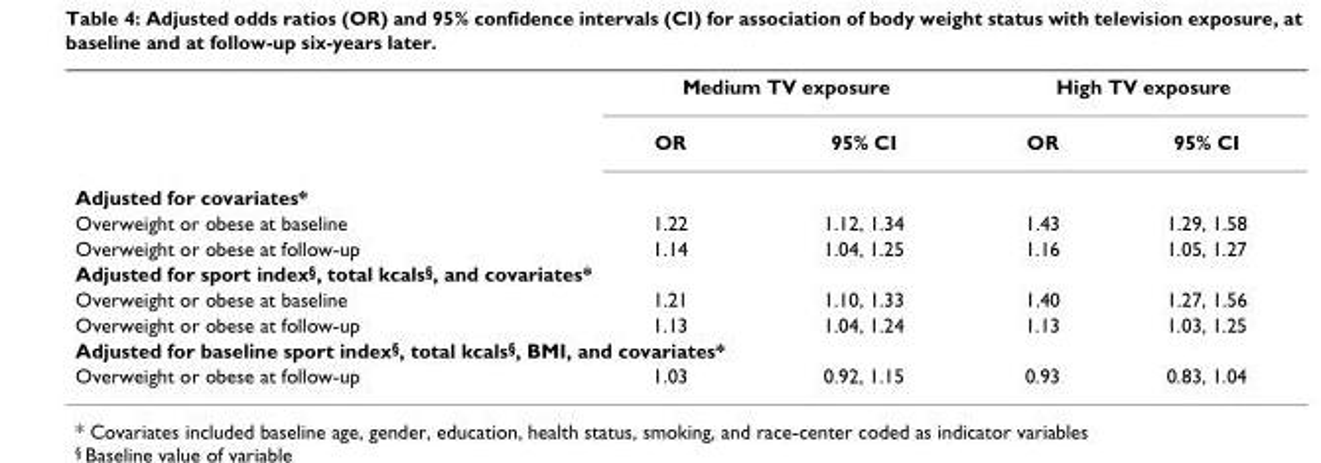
<table><thead><tr><td rowspan="2"></td><td colspan="2">Medium TV exposure</td><td colspan="2">High TV exposure</td></tr><tr><td>OR</td><td>95% CI</td><td>OR</td><td>95% CI</td></tr></thead><tbody><tr><td colspan="5">Adjusted for covariates*</td></tr><tr><td>Overweight or obese at baseline</td><td>1.22</td><td>1.12, 1.34</td><td>1.43</td><td>1.29, 1.58</td></tr><tr><td>Overweight or obese at follow-up</td><td>1.14</td><td>1.04, 1.25</td><td>1.16</td><td>1.05, 1.27</td></tr><tr><td colspan="5">Adjusted for sport index<sup>§</sup>, total kcals<sup>§</sup>, and covariates*</td></tr><tr><td>Overweight or obese at baseline</td><td>1.21</td><td>1.10, 1.33</td><td>1.40</td><td>1.27, 1.56</td></tr><tr><td>Overweight or obese at follow-up</td><td>1.13</td><td>1.04, 1.24</td><td>1.13</td><td>1.03, 1.25</td></tr><tr><td colspan="5">Adjusted for baseline sport index<sup>§</sup>, total kcals<sup>§</sup>, BMI, and covariates*</td></tr><tr><td>Overweight or obese at follow-up</td><td>1.03</td><td>0.92, 1.15</td><td>0.93</td><td>0.83, 1.04</td></tr></tbody></table>